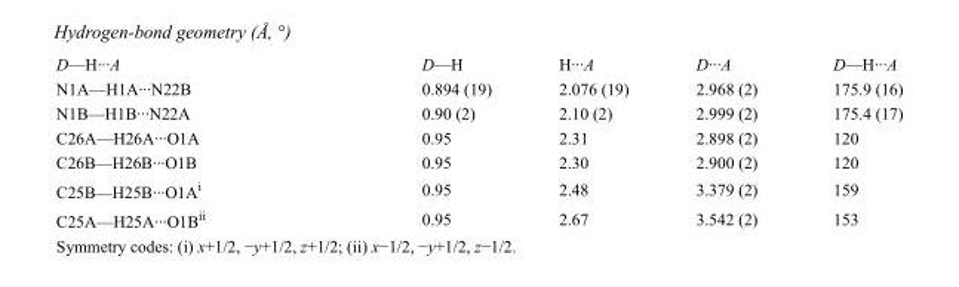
<table><tbody><tr><td>D—H···A</td><td>D—H</td><td>H···A</td><td>D···A</td><td>D—H···A</td></tr><tr><td>N1A—H1A···N22B</td><td>0.894 (19)</td><td>2.076 (19)</td><td>2.968 (2)</td><td>175.9 (16)</td></tr><tr><td>N1B—H1B···N22A</td><td>0.90 (2)</td><td>2.10 (2)</td><td>2.999 (2)</td><td>175.4 (17)</td></tr><tr><td>C26A—H26A···O1A</td><td>0.95</td><td>2.31</td><td>2.898 (2)</td><td>120</td></tr><tr><td>C26B—H26B···O1B</td><td>0.95</td><td>2.30</td><td>2.900 (2)</td><td>120</td></tr><tr><td>C25B—H25B···O1A<sup>i</sup></td><td>0.95</td><td>2.48</td><td>3.379 (2)</td><td>159</td></tr><tr><td>C25A—H25A···O1B<sup>ii</sup></td><td>0.95</td><td>2.67</td><td>3.542 (2)</td><td>153</td></tr></tbody></table>